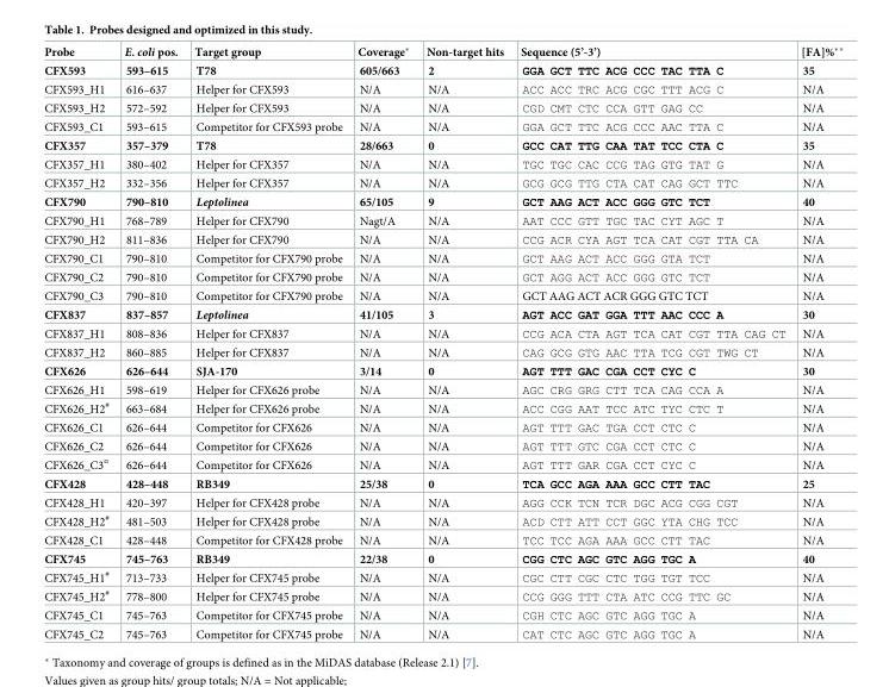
<table><thead><tr><td>Probe</td><td>E. coli pos.</td><td>Target group</td><td>Coverage*</td><td>Non-target hits</td><td>Sequence (5’-3’)</td><td>[FA]%**</td></tr></thead><tbody><tr><td>CFX593</td><td>593–615</td><td>T78</td><td>605/663</td><td>2</td><td>GGA GCT TTC ACG CCC TAC TTA C</td><td>35</td></tr><tr><td>CFX593_H1</td><td>616–637</td><td>Helper for CFX593</td><td>N/A</td><td>N/A</td><td>ACC ACC TRC ACG CGC TTT ACG C</td><td>N/A</td></tr><tr><td>CFX593_H2</td><td>572–592</td><td>Helper for CFX593</td><td>N/A</td><td>N/A</td><td>CGD CMT CTC CCA GTT GAG CC</td><td>N/A</td></tr><tr><td>CFX593_C1</td><td>593–615</td><td>Competitor for CFX593 probe</td><td>N/A</td><td>N/A</td><td>GGA GCT TTC ACG CCC AAC TTA C</td><td>N/A</td></tr><tr><td>CFX357</td><td>357–379</td><td>T78</td><td>28/663</td><td>0</td><td>GCC CAT TTG CAA TAT TCC CTA C</td><td>35</td></tr><tr><td>CFX357_H1</td><td>380–402</td><td>Helper for CFX357</td><td>N/A</td><td>N/A</td><td>TGC TGC CAC CCG TAG GTG TAT G</td><td>N/A</td></tr><tr><td>CFX357_H2</td><td>332–356</td><td>Helper for CFX357</td><td>N/A</td><td>N/A</td><td>GCG GCG TTG CTA CAT CAG GCT TTC</td><td>N/A</td></tr><tr><td>CFX790</td><td>790–810</td><td>Leptolinea</td><td>65/105</td><td>9</td><td>GCT AAG ACT ACC GGG GTC TCT</td><td>40</td></tr><tr><td>CFX790_H1</td><td>768–789</td><td>Helper for CFX790</td><td>Nagt/A</td><td>N/A</td><td>AAT CCC GTT TGC TAC CYT AGC T</td><td>N/A</td></tr><tr><td>CFX790_H2</td><td>811–836</td><td>Helper for CFX790</td><td>N/A</td><td>N/A</td><td>CCG ACR CYA AGT TCA CAT CGT TTA CA</td><td>N/A</td></tr><tr><td>CFX790_C1</td><td>790–810</td><td>Competitor for CFX790 probe</td><td>N/A</td><td>N/A</td><td>GCT AAG ACT ACC GGG GTA TCT</td><td>N/A</td></tr><tr><td>CFX790_C2</td><td>790–810</td><td>Competitor for CFX790 probe</td><td>N/A</td><td>N/A</td><td>GCT AGG ACT ACC GGG GTC TCT</td><td>N/A</td></tr><tr><td>CFX790_C3</td><td>790–810</td><td>Competitor for CFX790 probe</td><td>N/A</td><td>N/A</td><td>GCT AAG ACT ACR GGG GTC TCT</td><td>N/A</td></tr><tr><td>CFX837</td><td>837–857</td><td>Leptolinea</td><td>41/105</td><td>3</td><td>AGT ACC GAT GGA TTT AAC CCC A</td><td>30</td></tr><tr><td>CFX837_H1</td><td>808–836</td><td>Helper for CFX837</td><td>N/A</td><td>N/A</td><td>CCG ACA CTA AGT TCA CAT CGT TTA CAG CT</td><td>N/A</td></tr><tr><td>CFX837_H2</td><td>860–885</td><td>Helper for CFX837</td><td>N/A</td><td>N/A</td><td>CAG GCG GTG AAC TTA TCG CGT TWG CT</td><td>N/A</td></tr><tr><td>CFX626</td><td>626–644</td><td>SJA-170</td><td>3/14</td><td>0</td><td>AGT TTT GAC CGA CCT CYC C</td><td>30</td></tr><tr><td>CFX626_H1</td><td>598–619</td><td>Helper for CFX626 probe</td><td>N/A</td><td>N/A</td><td>AGC CRG GRG CTT TCA CAG CCA A</td><td>N/A</td></tr><tr><td>CFX626_H2<sup>#</sup></td><td>663–684</td><td>Helper for CFX626 probe</td><td>N/A</td><td>N/A</td><td>ACC CGG AAT TCC ATC TYC CTC T</td><td>N/A</td></tr><tr><td>CFX626_C1</td><td>626–644</td><td>Competitor for CFX626</td><td>N/A</td><td>N/A</td><td>AGT TTT GAC TGA CCT CTC C</td><td>N/A</td></tr><tr><td>CFX626_C2</td><td>626–644</td><td>Competitor for CFX626</td><td>N/A</td><td>N/A</td><td>AGT TTT GTC CGA CCT CTC C</td><td>N/A</td></tr><tr><td>CFX626_C3<sup>¤</sup></td><td>626–644</td><td>Competitor for CFX626</td><td>N/A</td><td>N/A</td><td>AGT TTT GAR CGA CCT CYC C</td><td>N/A</td></tr><tr><td>CFX428</td><td>428–448</td><td>RB349</td><td>25/38</td><td>0</td><td>TCA GCC AGA AAA GCC CTT TAC</td><td>25</td></tr><tr><td>CFX428_H1</td><td>420–397</td><td>Helper for CFX428 probe</td><td>N/A</td><td>N/A</td><td>AGG CCK TCN TCR DGC ACG CGG CGT</td><td>N/A</td></tr><tr><td>CFX428_H2<sup>#</sup></td><td>481–503</td><td>Helper for CFX428 probe</td><td>N/A</td><td>N/A</td><td>ACD CTT ATT CCT GGC YTA CHG TCC</td><td>N/A</td></tr><tr><td>CFX428_C1</td><td>428–448</td><td>Competitor for CFX428 probe</td><td>N/A</td><td>N/A</td><td>TCC TCC AGA AAA GCC CTT TAC</td><td>N/A</td></tr><tr><td>CFX745</td><td>745–763</td><td>RB349</td><td>22/38</td><td>0</td><td>CGG CTC AGC GTC AGG TGC A</td><td>40</td></tr><tr><td>CFX745_H1<sup>#</sup></td><td>713–733</td><td>Helper for CFX745 probe</td><td>N/A</td><td>N/A</td><td>CGC CTT CGC CTC TGG TGT TCC</td><td>N/A</td></tr><tr><td>CFX745_H2<sup>#</sup></td><td>778–800</td><td>Helper for CFX745 probe</td><td>N/A</td><td>N/A</td><td>CCG GGG TTT CTA ATC CCG TTC GC</td><td>N/A</td></tr><tr><td>CFX745_C1</td><td>745–763</td><td>Competitor for CFX745 probe</td><td>N/A</td><td>N/A</td><td>CGH CTC AGC GTC AGG TGC A</td><td>N/A</td></tr><tr><td>CFX745_C2</td><td>745–763</td><td>Competitor for CFX745 probe</td><td>N/A</td><td>N/A</td><td>CAT CTC AGC GTC AGG TGC A</td><td>N/A</td></tr></tbody></table>